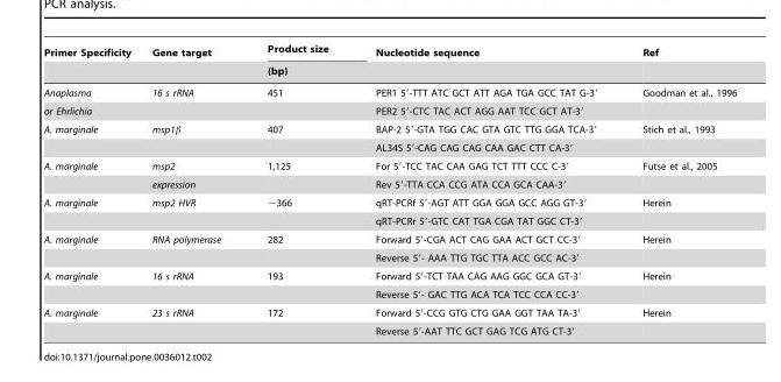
<table><thead><tr><td rowspan="2">Primer Specificity</td><td rowspan="2">Gene target</td><td rowspan="2">Product size (bp)</td><td rowspan="2">Nucleotide sequence</td><td rowspan="2">Ref</td></tr><tr></tr></thead><tbody><tr><td>Anaplasma</td><td>16 s rRNA</td><td>451</td><td>PER1 5′-TTT ATC GCT ATT AGA TGA GCC TAT G-3′</td><td>Goodman et al., 1996</td></tr><tr><td>or Ehrlichia</td><td></td><td></td><td>PER2 5′-CTC TAC ACT AGG AAT TCC GCT AT-3′</td><td></td></tr><tr><td rowspan="2">A. marginale</td><td>msp1β</td><td>407</td><td>BAP-2 5′-GTA TGG CAC GTA GTC TTG GGA TCA-3′</td><td>Stich et al., 1993</td></tr><tr><td></td><td></td><td>AL34S 5′-CAG CAG CAG CAA GAC CTT CA-3′</td><td></td></tr><tr><td rowspan="2">A. marginale</td><td>msp2</td><td>1,125</td><td>For 5′-TCC TAC CAA GAG TCT TTT CCC C-3′</td><td>Futse et al., 2005</td></tr><tr><td>expression</td><td></td><td>Rev 5′-TTA CCA CCG ATA CCA GCA CAA-3′</td><td></td></tr><tr><td rowspan="2">A. marginale</td><td>msp2 HVR</td><td>∼366</td><td>qRT-PCRf 5′-AGT ATT GGA GGA GCC AGG GT-3′</td><td>Herein</td></tr><tr><td></td><td></td><td>qRT-PCRr 5′-GTC CAT TGA CGA TAT GGC CT-3′</td><td></td></tr><tr><td rowspan="2">A. marginale</td><td>RNA polymerase</td><td>282</td><td>Forward 5′-CGA ACT CAG GAA ACT GCT CC-3′</td><td>Herein</td></tr><tr><td></td><td></td><td>Reverse 5′- AAA TTG TGC TTA ACC GCC AC-3′</td><td></td></tr><tr><td rowspan="2">A. marginale</td><td>16 s rRNA</td><td>193</td><td>Forward 5′-TCT TAA CAG AAG GGC GCA GT-3′</td><td>Herein</td></tr><tr><td></td><td></td><td>Reverse 5′- GAC TTG ACA TCA TCC CCA CC-3′</td><td></td></tr><tr><td rowspan="2">A. marginale</td><td>23 s rRNA</td><td>172</td><td>Forward 5′-CCG GTG CTG GAA GGT TAA TA-3′</td><td>Herein</td></tr><tr><td></td><td></td><td>Reverse 5′-AAT TTC GCT GAG TCG ATG CT-3′</td><td></td></tr></tbody></table>